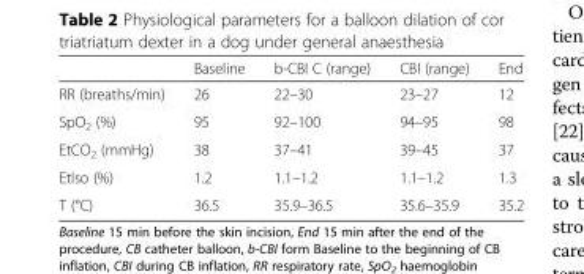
<table><thead><tr><td></td><td>Baseline</td><td>b-CBI C (range)</td><td>CBI (range)</td><td>End</td></tr></thead><tbody><tr><td>RR (breaths/min)</td><td>26</td><td>22–30</td><td>23–27</td><td>12</td></tr><tr><td>SpO<sub>2</sub> (%)</td><td>95</td><td>92–100</td><td>94–95</td><td>98</td></tr><tr><td>EtCO<sub>2</sub> (mmHg)</td><td>38</td><td>37–41</td><td>39–45</td><td>37</td></tr><tr><td>EtIso (%)</td><td>1.2</td><td>1.1–1.2</td><td>1.1–1.2</td><td>1.3</td></tr><tr><td>T (°C)</td><td>36.5</td><td>35.9–36.5</td><td>35.6–35.9</td><td>35.2</td></tr></tbody></table>